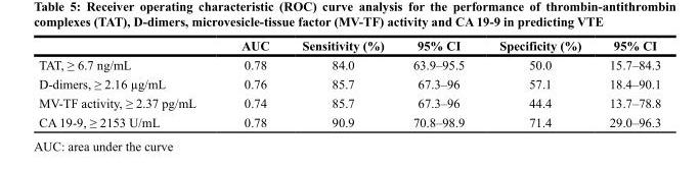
<table><thead><tr><td></td><td>AUC</td><td>Sensitivity (%)</td><td>95% CI</td><td>Specificity (%)</td><td>95% CI</td></tr></thead><tbody><tr><td>TAT, ≥ 6.7 ng/mL</td><td>0.78</td><td>84.0</td><td>63.9–95.5</td><td>50.0</td><td>15.7–84.3</td></tr><tr><td>D-dimers, ≥ 2.16 µg/mL</td><td>0.76</td><td>85.7</td><td>67.3–96</td><td>57.1</td><td>18.4–90.1</td></tr><tr><td>MV-TF activity, ≥ 2.37 pg/mL</td><td>0.74</td><td>85.7</td><td>67.3–96</td><td>44.4</td><td>13.7–78.8</td></tr><tr><td>CA 19-9, ≥ 2153 U/mL</td><td>0.78</td><td>90.9</td><td>70.8–98.9</td><td>71.4</td><td>29.0–96.3</td></tr></tbody></table>